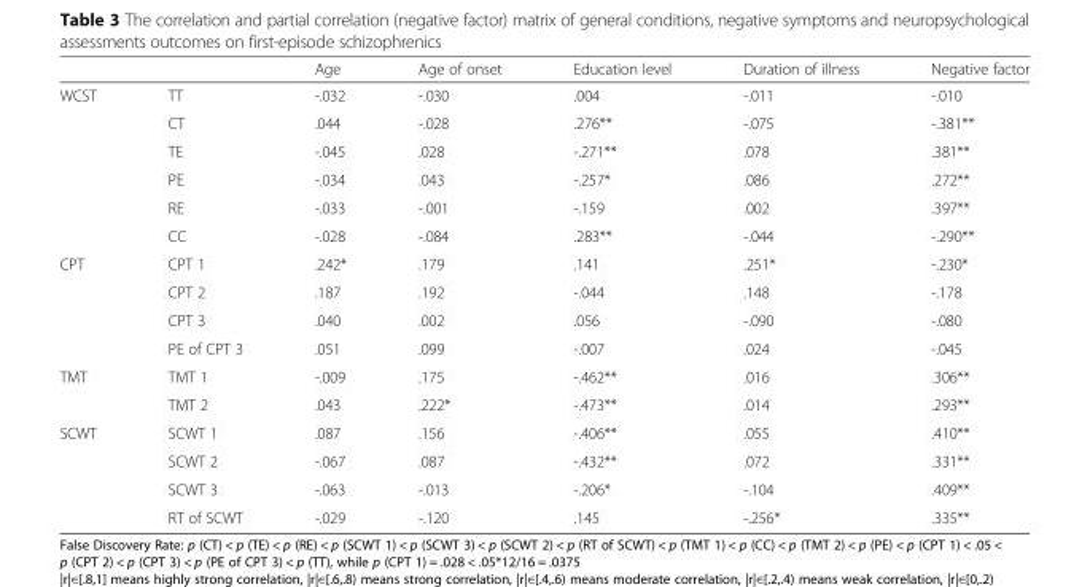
<table><thead><tr><td></td><td></td><td>Age</td><td>Age of onset</td><td>Education level</td><td>Duration of illness</td><td>Negative factor</td></tr></thead><tbody><tr><td rowspan="6">WCST</td><td>TT</td><td>-.032</td><td>-.030</td><td>.004</td><td>-.011</td><td>-.010</td></tr><tr><td>CT</td><td>.044</td><td>-.028</td><td>.276**</td><td>-.075</td><td>-.381**</td></tr><tr><td>TE</td><td>-.045</td><td>.028</td><td>-.271**</td><td>.078</td><td>.381**</td></tr><tr><td>PE</td><td>-.034</td><td>.043</td><td>-.257*</td><td>.086</td><td>.272**</td></tr><tr><td>RE</td><td>-.033</td><td>-.001</td><td>-.159</td><td>.002</td><td>.397**</td></tr><tr><td>CC</td><td>-.028</td><td>-.084</td><td>.283**</td><td>-.044</td><td>-.290**</td></tr><tr><td rowspan="4">CPT</td><td>CPT 1</td><td>.242*</td><td>.179</td><td>.141</td><td>.251*</td><td>-.230*</td></tr><tr><td>CPT 2</td><td>.187</td><td>.192</td><td>-.044</td><td>.148</td><td>-.178</td></tr><tr><td>CPT 3</td><td>.040</td><td>.002</td><td>.056</td><td>-.090</td><td>-.080</td></tr><tr><td>PE of CPT 3</td><td>.051</td><td>.099</td><td>-.007</td><td>.024</td><td>-.045</td></tr><tr><td rowspan="2">TMT</td><td>TMT 1</td><td>-.009</td><td>.175</td><td>-.462**</td><td>.016</td><td>.306**</td></tr><tr><td>TMT 2</td><td>.043</td><td>.222*</td><td>-.473**</td><td>.014</td><td>.293**</td></tr><tr><td rowspan="4">SCWT</td><td>SCWT 1</td><td>.087</td><td>.156</td><td>-.406**</td><td>.055</td><td>.410**</td></tr><tr><td>SCWT 2</td><td>-.067</td><td>.087</td><td>-.432**</td><td>.072</td><td>.331**</td></tr><tr><td>SCWT 3</td><td>-.063</td><td>-.013</td><td>-.206*</td><td>-.104</td><td>.409**</td></tr><tr><td>RT of SCWT</td><td>-.029</td><td>-.120</td><td>.145</td><td>-.256*</td><td>.335**</td></tr></tbody></table>